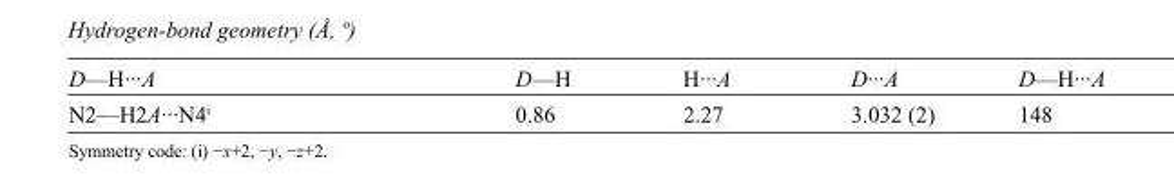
<table><tbody><tr><td>D—H···A</td><td>D—H</td><td>H···A</td><td>D···A</td><td>D—H···A</td></tr><tr><td>N2—H2A···N4<sup>i</sup></td><td>0.86</td><td>2.27</td><td>3.032 (2)</td><td>148</td></tr></tbody></table>